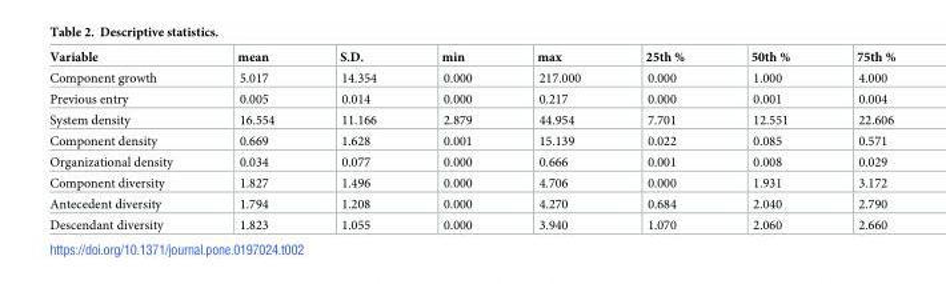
<table><thead><tr><td>Variable</td><td>mean</td><td>S.D.</td><td>min</td><td>max</td><td>25th %</td><td>50th %</td><td>75th %</td></tr></thead><tbody><tr><td>Component growth</td><td>5.017</td><td>14.354</td><td>0.000</td><td>217.000</td><td>0.000</td><td>1.000</td><td>4.000</td></tr><tr><td>Previous entry</td><td>0.005</td><td>0.014</td><td>0.000</td><td>0.217</td><td>0.000</td><td>0.001</td><td>0.004</td></tr><tr><td>System density</td><td>16.554</td><td>11.166</td><td>2.879</td><td>44.954</td><td>7.701</td><td>12.551</td><td>22.606</td></tr><tr><td>Component density</td><td>0.669</td><td>1.628</td><td>0.001</td><td>15.139</td><td>0.022</td><td>0.085</td><td>0.571</td></tr><tr><td>Organizational density</td><td>0.034</td><td>0.077</td><td>0.000</td><td>0.666</td><td>0.001</td><td>0.008</td><td>0.029</td></tr><tr><td>Component diversity</td><td>1.827</td><td>1.496</td><td>0.000</td><td>4.706</td><td>0.000</td><td>1.931</td><td>3.172</td></tr><tr><td>Antecedent diversity</td><td>1.794</td><td>1.208</td><td>0.000</td><td>4.270</td><td>0.684</td><td>2.040</td><td>2.790</td></tr><tr><td>Descendant diversity</td><td>1.823</td><td>1.055</td><td>0.000</td><td>3.940</td><td>1.070</td><td>2.060</td><td>2.660</td></tr></tbody></table>